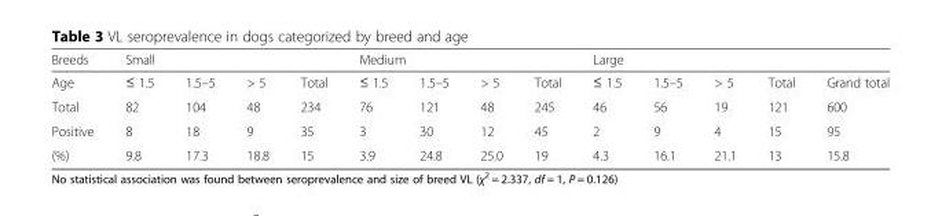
<table><thead><tr><td rowspan="2">Breeds Age</td><td colspan="3">Small</td><td rowspan="2">Total</td><td colspan="3">Medium</td><td rowspan="2">Total</td><td colspan="3">Large</td><td rowspan="2">Total</td><td rowspan="2">Grand total</td></tr><tr><td>≤ 1.5</td><td>1.5–5</td><td>&gt; 5</td><td>≤ 1.5</td><td>1.5–5</td><td>&gt; 5</td><td>≤ 1.5</td><td>1.5–5</td><td>&gt; 5</td></tr></thead><tbody><tr><td>Total</td><td>82</td><td>104</td><td>48</td><td>234</td><td>76</td><td>121</td><td>48</td><td>245</td><td>46</td><td>56</td><td>19</td><td>121</td><td>600</td></tr><tr><td>Positive</td><td>8</td><td>18</td><td>9</td><td>35</td><td>3</td><td>30</td><td>12</td><td>45</td><td>2</td><td>9</td><td>4</td><td>15</td><td>95</td></tr><tr><td>(%)</td><td>9.8</td><td>17.3</td><td>18.8</td><td>15</td><td>3.9</td><td>24.8</td><td>25.0</td><td>19</td><td>4.3</td><td>16.1</td><td>21.1</td><td>13</td><td>15.8</td></tr></tbody></table>